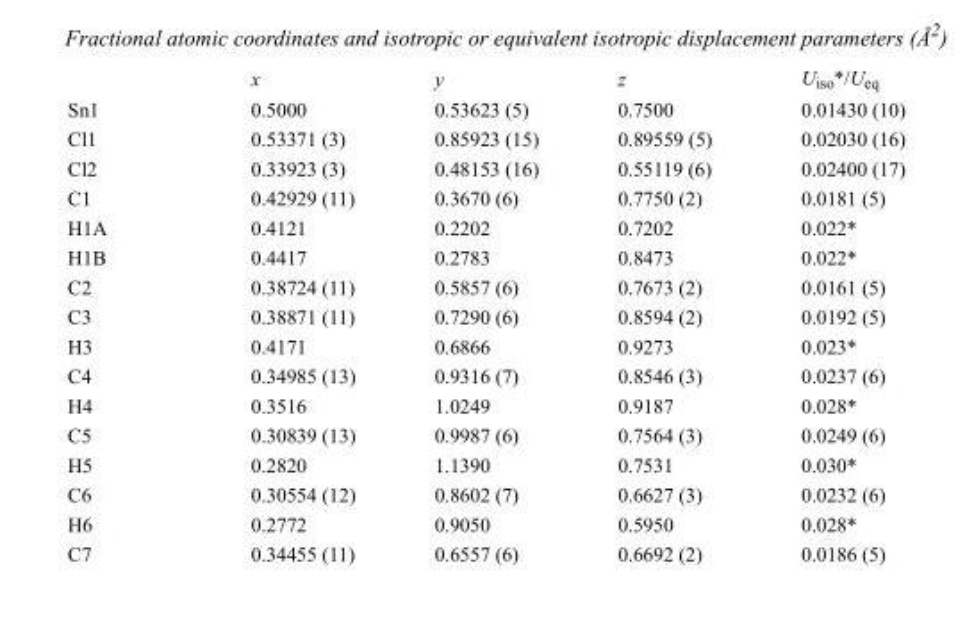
<table><thead><tr><td></td><td>x</td><td>y</td><td>z</td><td>U<sub>iso</sub>*/U<sub>eq</sub></td></tr></thead><tbody><tr><td>Sn1</td><td>0.5000</td><td>0.53623 (5)</td><td>0.7500</td><td>0.01430 (10)</td></tr><tr><td>Cl1</td><td>0.53371 (3)</td><td>0.85923 (15)</td><td>0.89559 (5)</td><td>0.02030 (16)</td></tr><tr><td>Cl2</td><td>0.33923 (3)</td><td>0.48153 (16)</td><td>0.55119 (6)</td><td>0.02400 (17)</td></tr><tr><td>C1</td><td>0.42929 (11)</td><td>0.3670 (6)</td><td>0.7750 (2)</td><td>0.0181 (5)</td></tr><tr><td>H1A</td><td>0.4121</td><td>0.2202</td><td>0.7202</td><td>0.022*</td></tr><tr><td>H1B</td><td>0.4417</td><td>0.2783</td><td>0.8473</td><td>0.022*</td></tr><tr><td>C2</td><td>0.38724 (11)</td><td>0.5857 (6)</td><td>0.7673 (2)</td><td>0.0161 (5)</td></tr><tr><td>C3</td><td>0.38871 (11)</td><td>0.7290 (6)</td><td>0.8594 (2)</td><td>0.0192 (5)</td></tr><tr><td>H3</td><td>0.4171</td><td>0.6866</td><td>0.9273</td><td>0.023*</td></tr><tr><td>C4</td><td>0.34985 (13)</td><td>0.9316 (7)</td><td>0.8546 (3)</td><td>0.0237 (6)</td></tr><tr><td>H4</td><td>0.3516</td><td>1.0249</td><td>0.9187</td><td>0.028*</td></tr><tr><td>C5</td><td>0.30839 (13)</td><td>0.9987 (6)</td><td>0.7564 (3)</td><td>0.0249 (6)</td></tr><tr><td>H5</td><td>0.2820</td><td>1.1390</td><td>0.7531</td><td>0.030*</td></tr><tr><td>C6</td><td>0.30554 (12)</td><td>0.8602 (7)</td><td>0.6627 (3)</td><td>0.0232 (6)</td></tr><tr><td>H6</td><td>0.2772</td><td>0.9050</td><td>0.5950</td><td>0.028*</td></tr><tr><td>C7</td><td>0.34455 (11)</td><td>0.6557 (6)</td><td>0.6692 (2)</td><td>0.0186 (5)</td></tr></tbody></table>